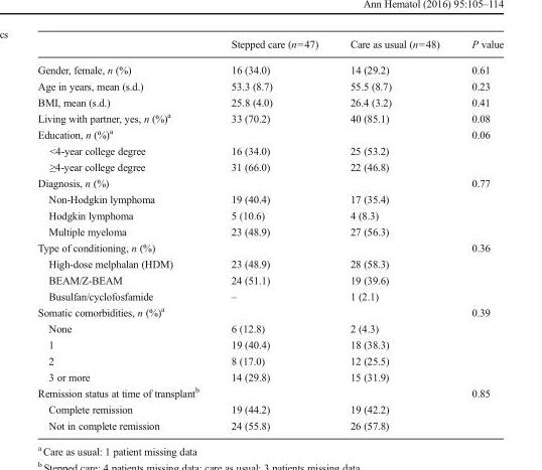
<table><thead><tr><td></td><td>Stepped care (n=47)</td><td>Care as usual (n=48)</td><td>P value</td></tr></thead><tbody><tr><td>Gender, female, n (%)</td><td>16 (34.0)</td><td>14 (29.2)</td><td>0.61</td></tr><tr><td>Age in years, mean (s.d.)</td><td>53.3 (8.7)</td><td>55.5 (8.7)</td><td>0.23</td></tr><tr><td>BMI, mean (s.d.)</td><td>25.8 (4.0)</td><td>26.4 (3.2)</td><td>0.41</td></tr><tr><td>Living with partner, yes, n (%)<sup>a</sup></td><td>33 (70.2)</td><td>40 (85.1)</td><td>0.08</td></tr><tr><td>Education, n (%)<sup>a</sup></td><td></td><td></td><td>0.06</td></tr><tr><td>&lt;4-year college degree</td><td>16 (34.0)</td><td>25 (53.2)</td><td></td></tr><tr><td>≥4-year college degree</td><td>31 (66.0)</td><td>22 (46.8)</td><td></td></tr><tr><td>Diagnosis, n (%)</td><td></td><td></td><td>0.77</td></tr><tr><td>Non-Hodgkin lymphoma</td><td>19 (40.4)</td><td>17 (35.4)</td><td></td></tr><tr><td>Hodgkin lymphoma</td><td>5 (10.6)</td><td>4 (8.3)</td><td></td></tr><tr><td>Multiple myeloma</td><td>23 (48.9)</td><td>27 (56.3)</td><td></td></tr><tr><td>Type of conditioning, n (%)</td><td></td><td></td><td>0.36</td></tr><tr><td>High-dose melphalan (HDM)</td><td>23 (48.9)</td><td>28 (58.3)</td><td></td></tr><tr><td>BEAM/Z-BEAM</td><td>24 (51.1)</td><td>19 (39.6)</td><td></td></tr><tr><td>Busulfan/cyclofosfamide</td><td>–</td><td>1 (2.1)</td><td></td></tr><tr><td>Somatic comorbidities, n (%)<sup>a</sup></td><td></td><td></td><td>0.39</td></tr><tr><td>None</td><td>6 (12.8)</td><td>2 (4.3)</td><td></td></tr><tr><td>1</td><td>19 (40.4)</td><td>18 (38.3)</td><td></td></tr><tr><td>2</td><td>8 (17.0)</td><td>12 (25.5)</td><td></td></tr><tr><td>3 or more</td><td>14 (29.8)</td><td>15 (31.9)</td><td></td></tr><tr><td>Remission status at time of transplant<sup>b</sup></td><td></td><td></td><td>0.85</td></tr><tr><td>Complete remission</td><td>19 (44.2)</td><td>19 (42.2)</td><td></td></tr><tr><td>Not in complete remission</td><td>24 (55.8)</td><td>26 (57.8)</td><td></td></tr></tbody></table>